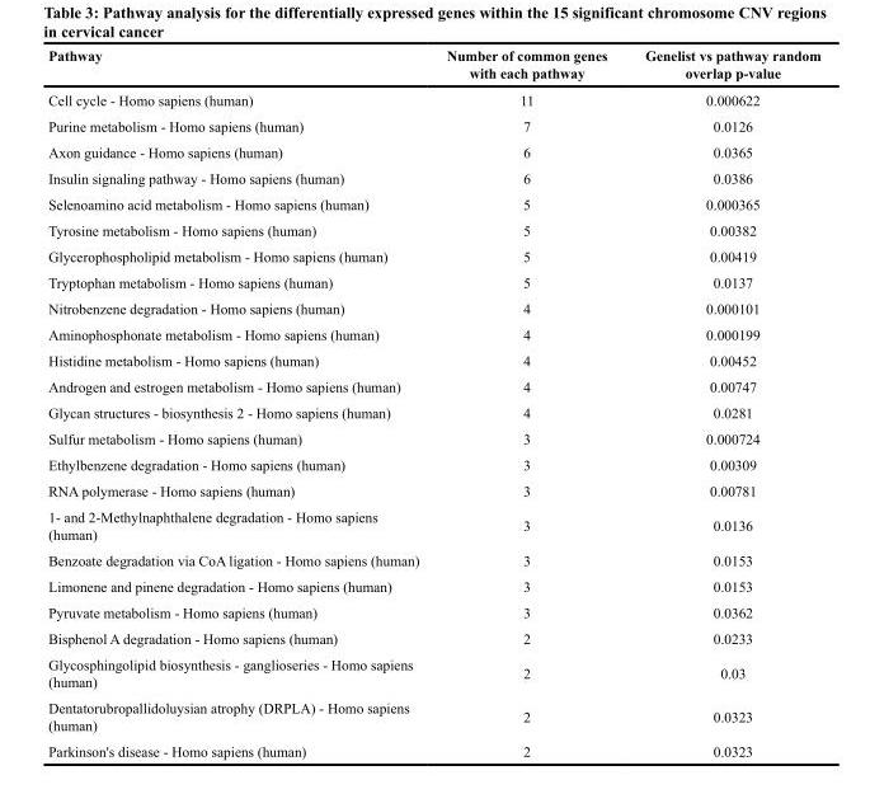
<table><thead><tr><td>Pathway</td><td>Number of common genes with each pathway</td><td>Genelist vs pathway random overlap p-value</td></tr></thead><tbody><tr><td>Cell cycle - Homo sapiens (human)</td><td>11</td><td>0.000622</td></tr><tr><td>Purine metabolism - Homo sapiens (human)</td><td>7</td><td>0.0126</td></tr><tr><td>Axon guidance - Homo sapiens (human)</td><td>6</td><td>0.0365</td></tr><tr><td>Insulin signaling pathway - Homo sapiens (human)</td><td>6</td><td>0.0386</td></tr><tr><td>Selenoamino acid metabolism - Homo sapiens (human)</td><td>5</td><td>0.000365</td></tr><tr><td>Tyrosine metabolism - Homo sapiens (human)</td><td>5</td><td>0.00382</td></tr><tr><td>Glycerophospholipid metabolism - Homo sapiens (human)</td><td>5</td><td>0.00419</td></tr><tr><td>Tryptophan metabolism - Homo sapiens (human)</td><td>5</td><td>0.0137</td></tr><tr><td>Nitrobenzene degradation - Homo sapiens (human)</td><td>4</td><td>0.000101</td></tr><tr><td>Aminophosphonate metabolism - Homo sapiens (human)</td><td>4</td><td>0.000199</td></tr><tr><td>Histidine metabolism - Homo sapiens (human)</td><td>4</td><td>0.00452</td></tr><tr><td>Androgen and estrogen metabolism - Homo sapiens (human)</td><td>4</td><td>0.00747</td></tr><tr><td>Glycan structures - biosynthesis 2 - Homo sapiens (human)</td><td>4</td><td>0.0281</td></tr><tr><td>Sulfur metabolism - Homo sapiens (human)</td><td>3</td><td>0.000724</td></tr><tr><td>Ethylbenzene degradation - Homo sapiens (human)</td><td>3</td><td>0.00309</td></tr><tr><td>RNA polymerase - Homo sapiens (human)</td><td>3</td><td>0.00781</td></tr><tr><td>1- and 2-Methylnaphthalene degradation - Homo sapiens (human)</td><td>3</td><td>0.0136</td></tr><tr><td>Benzoate degradation via CoA ligation - Homo sapiens (human)</td><td>3</td><td>0.0153</td></tr><tr><td>Limonene and pinene degradation - Homo sapiens (human)</td><td>3</td><td>0.0153</td></tr><tr><td>Pyruvate metabolism - Homo sapiens (human)</td><td>3</td><td>0.0362</td></tr><tr><td>Bisphenol A degradation - Homo sapiens (human)</td><td>2</td><td>0.0233</td></tr><tr><td>Glycosphingolipid biosynthesis - ganglioseries - Homo sapiens (human)</td><td>2</td><td>0.03</td></tr><tr><td>Dentatorubropallidoluysian atrophy (DRPLA) - Homo sapiens (human)</td><td>2</td><td>0.0323</td></tr><tr><td>Parkinson&#x27;s disease - Homo sapiens (human)</td><td>2</td><td>0.0323</td></tr></tbody></table>